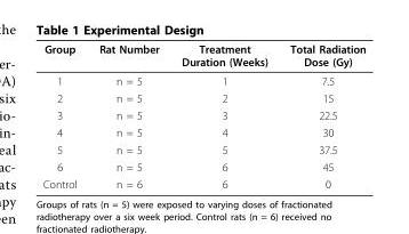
<table><thead><tr><td>Group</td><td>Rat Number</td><td>Treatment Duration (Weeks)</td><td>Total Radiation Dose (Gy)</td></tr></thead><tbody><tr><td>1</td><td>n = 5</td><td>1</td><td>7.5</td></tr><tr><td>2</td><td>n = 5</td><td>2</td><td>15</td></tr><tr><td>3</td><td>n = 5</td><td>3</td><td>22.5</td></tr><tr><td>4</td><td>n = 5</td><td>4</td><td>30</td></tr><tr><td>5</td><td>n = 5</td><td>5</td><td>37.5</td></tr><tr><td>6</td><td>n = 5</td><td>6</td><td>45</td></tr><tr><td>Control</td><td>n = 6</td><td>6</td><td>0</td></tr></tbody></table>